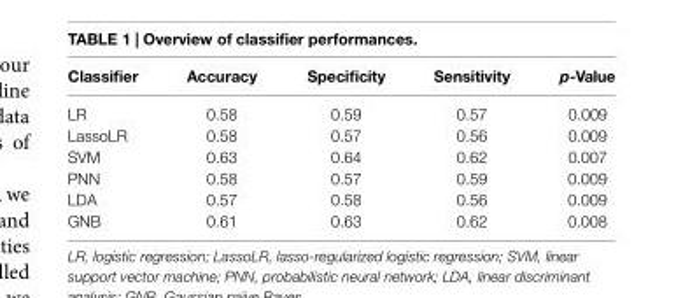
<table><thead><tr><td>Classifier</td><td>Accuracy</td><td>specificity</td><td>sensitivity</td><td>p-Value</td></tr></thead><tbody><tr><td>LR</td><td>0.58</td><td>0.59</td><td>0.57</td><td>0.009</td></tr><tr><td>LassoLR</td><td>0.58</td><td>0.57</td><td>0.56</td><td>0.009</td></tr><tr><td>SVM</td><td>0.63</td><td>0.64</td><td>0.62</td><td>0.007</td></tr><tr><td>PNN</td><td>0.58</td><td>0.57</td><td>0.59</td><td>0.009</td></tr><tr><td>LDA</td><td>0.57</td><td>0.58</td><td>0.56</td><td>0.009</td></tr><tr><td>GNB</td><td>0.61</td><td>0.63</td><td>0.62</td><td>0.008</td></tr></tbody></table>